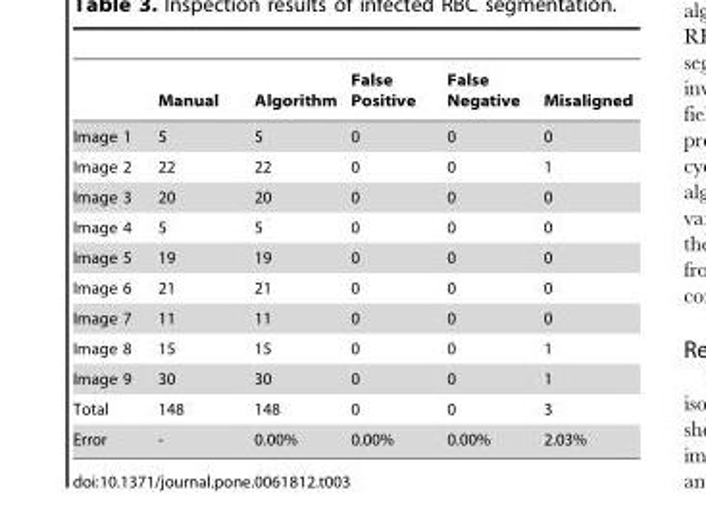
<table><thead><tr><td></td><td>Manual</td><td>Algorithm</td><td>False Positive</td><td>False Negative</td><td>Misaligned</td></tr></thead><tbody><tr><td>Image 1</td><td>5</td><td>5</td><td>0</td><td>0</td><td>0</td></tr><tr><td>Image 2</td><td>22</td><td>22</td><td>0</td><td>0</td><td>1</td></tr><tr><td>Image 3</td><td>20</td><td>20</td><td>0</td><td>0</td><td>0</td></tr><tr><td>Image 4</td><td>5</td><td>5</td><td>0</td><td>0</td><td>0</td></tr><tr><td>Image 5</td><td>19</td><td>19</td><td>0</td><td>0</td><td>0</td></tr><tr><td>Image 6</td><td>21</td><td>21</td><td>0</td><td>0</td><td>0</td></tr><tr><td>Image 7</td><td>11</td><td>11</td><td>0</td><td>0</td><td>0</td></tr><tr><td>Image 8</td><td>15</td><td>15</td><td>0</td><td>0</td><td>1</td></tr><tr><td>Image 9</td><td>30</td><td>30</td><td>0</td><td>0</td><td>1</td></tr><tr><td>Total</td><td>148</td><td>148</td><td>0</td><td>0</td><td>3</td></tr><tr><td>Error</td><td>-</td><td>0.00%</td><td>0.00%</td><td>0.00%</td><td>2.03%</td></tr></tbody></table>